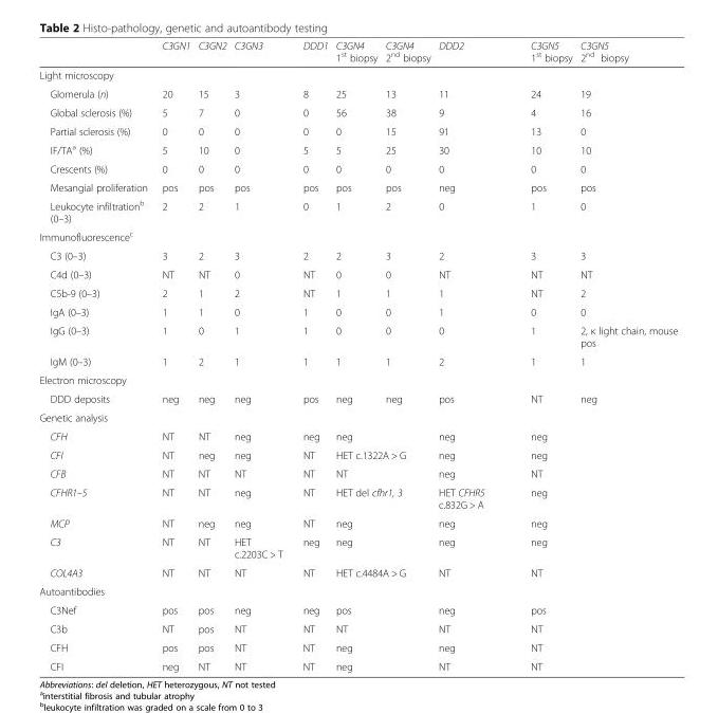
<table><thead><tr><td></td><td>C3GN1</td><td>C3GN2</td><td>C3GN3</td><td>DDD1</td><td>C3GN4 1<sup>st</sup> biopsy</td><td>C3GN4 2<sup>nd</sup> biopsy</td><td>DDD2</td><td>C3GN5 1<sup>st</sup> biopsy</td><td>C3GN5 2<sup>nd</sup> biopsy</td></tr></thead><tbody><tr><td colspan="10">Light microscopy</td></tr><tr><td>Glomerula (n)</td><td>20</td><td>15</td><td>3</td><td>8</td><td>25</td><td>13</td><td>11</td><td>24</td><td>19</td></tr><tr><td>Global sclerosis (%)</td><td>5</td><td>7</td><td>0</td><td>0</td><td>56</td><td>38</td><td>9</td><td>4</td><td>16</td></tr><tr><td>Partial sclerosis (%)</td><td>0</td><td>0</td><td>0</td><td>0</td><td>0</td><td>15</td><td>91</td><td>13</td><td>0</td></tr><tr><td>IF/TA<sup>a</sup> (%)</td><td>5</td><td>10</td><td>0</td><td>5</td><td>5</td><td>25</td><td>30</td><td>10</td><td>10</td></tr><tr><td>Crescents (%)</td><td>0</td><td>0</td><td>0</td><td>0</td><td>0</td><td>0</td><td>0</td><td>0</td><td>0</td></tr><tr><td>Mesangial proliferation</td><td>pos</td><td>pos</td><td>pos</td><td>pos</td><td>pos</td><td>pos</td><td>neg</td><td>pos</td><td>pos</td></tr><tr><td>Leukocyte infiltration<sup>b</sup> (0–3)</td><td>2</td><td>2</td><td>1</td><td>0</td><td>1</td><td>2</td><td>0</td><td>1</td><td>0</td></tr><tr><td colspan="10">Immunofluorescence<sup>c</sup></td></tr><tr><td>C3 (0–3)</td><td>3</td><td>2</td><td>3</td><td>2</td><td>2</td><td>3</td><td>2</td><td>3</td><td>3</td></tr><tr><td>C4d (0–3)</td><td>NT</td><td>NT</td><td>0</td><td>NT</td><td>0</td><td>0</td><td>NT</td><td>NT</td><td>NT</td></tr><tr><td>C5b-9 (0–3)</td><td>2</td><td>1</td><td>2</td><td>NT</td><td>1</td><td>1</td><td>1</td><td>NT</td><td>2</td></tr><tr><td>IgA (0–3)</td><td>1</td><td>1</td><td>0</td><td>1</td><td>0</td><td>0</td><td>1</td><td>0</td><td>0</td></tr><tr><td>IgG (0–3)</td><td>1</td><td>0</td><td>1</td><td>1</td><td>0</td><td>0</td><td>0</td><td>1</td><td>2, κ light chain, mouse pos</td></tr><tr><td>IgM (0–3)</td><td>1</td><td>2</td><td>1</td><td>1</td><td>1</td><td>1</td><td>2</td><td>1</td><td>1</td></tr><tr><td colspan="10">Electron microscopy</td></tr><tr><td>DDD deposits</td><td>neg</td><td>neg</td><td>neg</td><td>pos</td><td>neg</td><td>neg</td><td>pos</td><td>NT</td><td>neg</td></tr><tr><td colspan="10">Genetic analysis</td></tr><tr><td>CFH</td><td>NT</td><td>NT</td><td>neg</td><td>neg</td><td colspan="2">neg</td><td>neg</td><td>neg</td><td></td></tr><tr><td>CFI</td><td>NT</td><td>neg</td><td>neg</td><td>NT</td><td colspan="2">HET c.1322A &gt; G</td><td>neg</td><td>neg</td><td></td></tr><tr><td>CFB</td><td>NT</td><td>NT</td><td>NT</td><td>NT</td><td colspan="2">NT</td><td>neg</td><td>NT</td><td></td></tr><tr><td>CFHR1–5</td><td>NT</td><td>NT</td><td>neg</td><td>NT</td><td colspan="2">HET del cfhr1, 3</td><td>HET CFHR5 c.832G &gt; A</td><td>neg</td><td></td></tr><tr><td>MCP</td><td>NT</td><td>neg</td><td>neg</td><td>NT</td><td colspan="2">neg</td><td>neg</td><td>neg</td><td></td></tr><tr><td>C3</td><td>NT</td><td>NT</td><td>HET c.2203C &gt; T</td><td>neg</td><td colspan="2">neg</td><td>neg</td><td>neg</td><td></td></tr><tr><td>COL4A3</td><td>NT</td><td>NT</td><td>NT</td><td>NT</td><td colspan="2">HET c.4484A &gt; G</td><td>NT</td><td>NT</td><td></td></tr><tr><td colspan="10">Autoantibodies</td></tr><tr><td>C3Nef</td><td>pos</td><td>pos</td><td>neg</td><td>neg</td><td colspan="2">pos</td><td>neg</td><td>pos</td><td></td></tr><tr><td>C3b</td><td>NT</td><td>pos</td><td>NT</td><td>NT</td><td colspan="2">NT</td><td>NT</td><td>NT</td><td></td></tr><tr><td>CFH</td><td>pos</td><td>pos</td><td>NT</td><td>NT</td><td colspan="2">neg</td><td>neg</td><td>NT</td><td></td></tr><tr><td>CFI</td><td>neg</td><td>NT</td><td>NT</td><td>NT</td><td colspan="2">neg</td><td>NT</td><td>NT</td><td></td></tr></tbody></table>